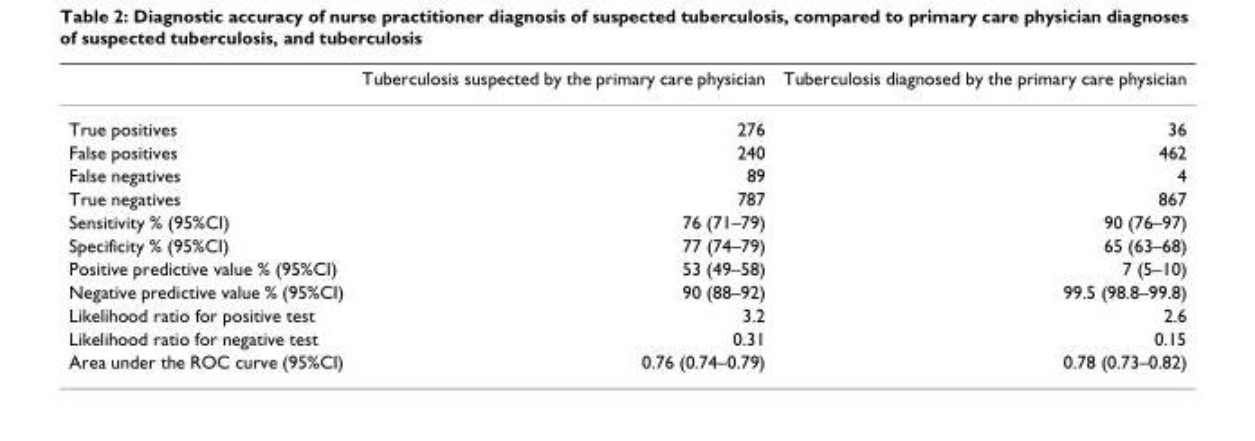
<table><thead><tr><td></td><td>Tuberculosis suspected by the primary care physician</td><td>Tuberculosis diagnosed by the primary care physician</td></tr></thead><tbody><tr><td>True positives</td><td>276</td><td>36</td></tr><tr><td>False positives</td><td>240</td><td>462</td></tr><tr><td>False negatives</td><td>89</td><td>4</td></tr><tr><td>True negatives</td><td>787</td><td>867</td></tr><tr><td>Sensitivity % (95%CI)</td><td>76 (71–79)</td><td>90 (76–97)</td></tr><tr><td>Specificity % (95%CI)</td><td>77 (74–79)</td><td>65 (63–68)</td></tr><tr><td>Positive predictive value % (95%CI)</td><td>53 (49–58)</td><td>7 (5–10)</td></tr><tr><td>Negative predictive value % (95%CI)</td><td>90 (88–92)</td><td>99.5 (98.8–99.8)</td></tr><tr><td>Likelihood ratio for positive test</td><td>3.2</td><td>2.6</td></tr><tr><td>Likelihood ratio for negative test</td><td>0.31</td><td>0.15</td></tr><tr><td>Area under the ROC curve (95%CI)</td><td>0.76 (0.74–0.79)</td><td>0.78 (0.73–0.82)</td></tr></tbody></table>